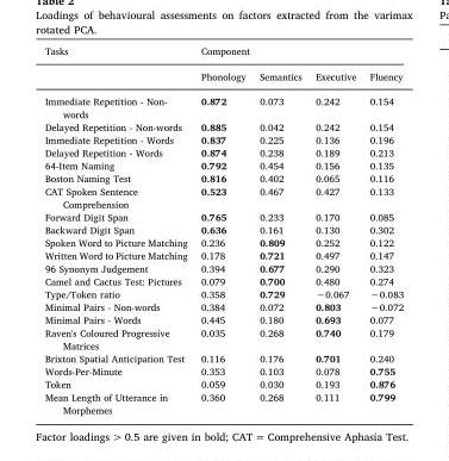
<table><thead><tr><td rowspan="2">Tasks</td><td colspan="4">Component</td></tr><tr><td>Phonology</td><td>Semantics</td><td>Executive</td><td>Fluency</td></tr></thead><tbody><tr><td>Immediate Repetition - Non- words</td><td>0.872</td><td>0.073</td><td>0.242</td><td>0.154</td></tr><tr><td>Delayed Repetition - Non-words</td><td>0.885</td><td>0.042</td><td>0.242</td><td>0.154</td></tr><tr><td>Immediate Repetition - Words</td><td>0.837</td><td>0.225</td><td>0.136</td><td>0.196</td></tr><tr><td>Delayed Repetition - Words</td><td>0.874</td><td>0.238</td><td>0.189</td><td>0.213</td></tr><tr><td>64-Item Naming</td><td>0.792</td><td>0.454</td><td>0.156</td><td>0.135</td></tr><tr><td>Boston Naming Test</td><td>0.816</td><td>0.402</td><td>0.065</td><td>0.116</td></tr><tr><td>CAT Spoken Sentence Comprehension</td><td>0.523</td><td>0.467</td><td>0.427</td><td>0.133</td></tr><tr><td>Forward Digit Span</td><td>0.765</td><td>0.233</td><td>0.170</td><td>0.085</td></tr><tr><td>Backward Digit Span</td><td>0.636</td><td>0.161</td><td>0.130</td><td>0.302</td></tr><tr><td>Spoken Word to Picture Matching</td><td>0.236</td><td>0.809</td><td>0.252</td><td>0.122</td></tr><tr><td>Written Word to Picture Matching</td><td>0.178</td><td>0.721</td><td>0.497</td><td>0.147</td></tr><tr><td>96 Synonym Judgement</td><td>0.394</td><td>0.677</td><td>0.290</td><td>0.323</td></tr><tr><td>Camel and Cactus Test: Pictures</td><td>0.079</td><td>0.700</td><td>0.480</td><td>0.274</td></tr><tr><td>Type/Token ratio</td><td>0.358</td><td>0.729</td><td>−0.067</td><td>−0.083</td></tr><tr><td>Minimal Pairs - Non-words</td><td>0.384</td><td>0.072</td><td>0.803</td><td>−0.072</td></tr><tr><td>Minimal Pairs - Words</td><td>0.445</td><td>0.180</td><td>0.693</td><td>0.077</td></tr><tr><td>Raven&#x27;s Coloured Progressive Matrices</td><td>0.035</td><td>0.268</td><td>0.740</td><td>0.179</td></tr><tr><td>Brixton Spatial Anticipation Test</td><td>0.116</td><td>0.176</td><td>0.701</td><td>0.240</td></tr><tr><td>Words-Per-Minute</td><td>0.353</td><td>0.103</td><td>0.078</td><td>0.755</td></tr><tr><td>Token</td><td>0.059</td><td>0.030</td><td>0.193</td><td>0.876</td></tr><tr><td>Mean Length of Utterance in Morphemes</td><td>0.360</td><td>0.268</td><td>0.111</td><td>0.799</td></tr></tbody></table>